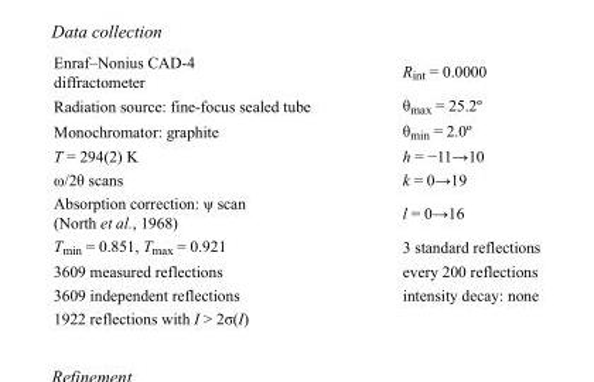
<table><tbody><tr><td>Enraf–Nonius CAD-4 diffractometer</td><td>R<sub>int</sub> = 0.0000</td></tr><tr><td>Radiation source: fine-focus sealed tube</td><td>θ<sub>max</sub> = 25.2º</td></tr><tr><td>Monochromator: graphite</td><td>θ<sub>min</sub> = 2.0º</td></tr><tr><td>T = 294(2) K</td><td>h = −11→10</td></tr><tr><td>ω/2θ scans</td><td>k = 0→19</td></tr><tr><td>Absorption correction: ψ scan (North et al., 1968)</td><td>l = 0→16</td></tr><tr><td>T<sub>min</sub> = 0.851, T<sub>max</sub> = 0.921</td><td>3 standard reflections</td></tr><tr><td>3609 measured reflections</td><td>every 200 reflections</td></tr><tr><td>3609 independent reflections</td><td>intensity decay: none</td></tr><tr><td>1922 reflections with I &gt; 2σ(I)</td><td></td></tr></tbody></table>